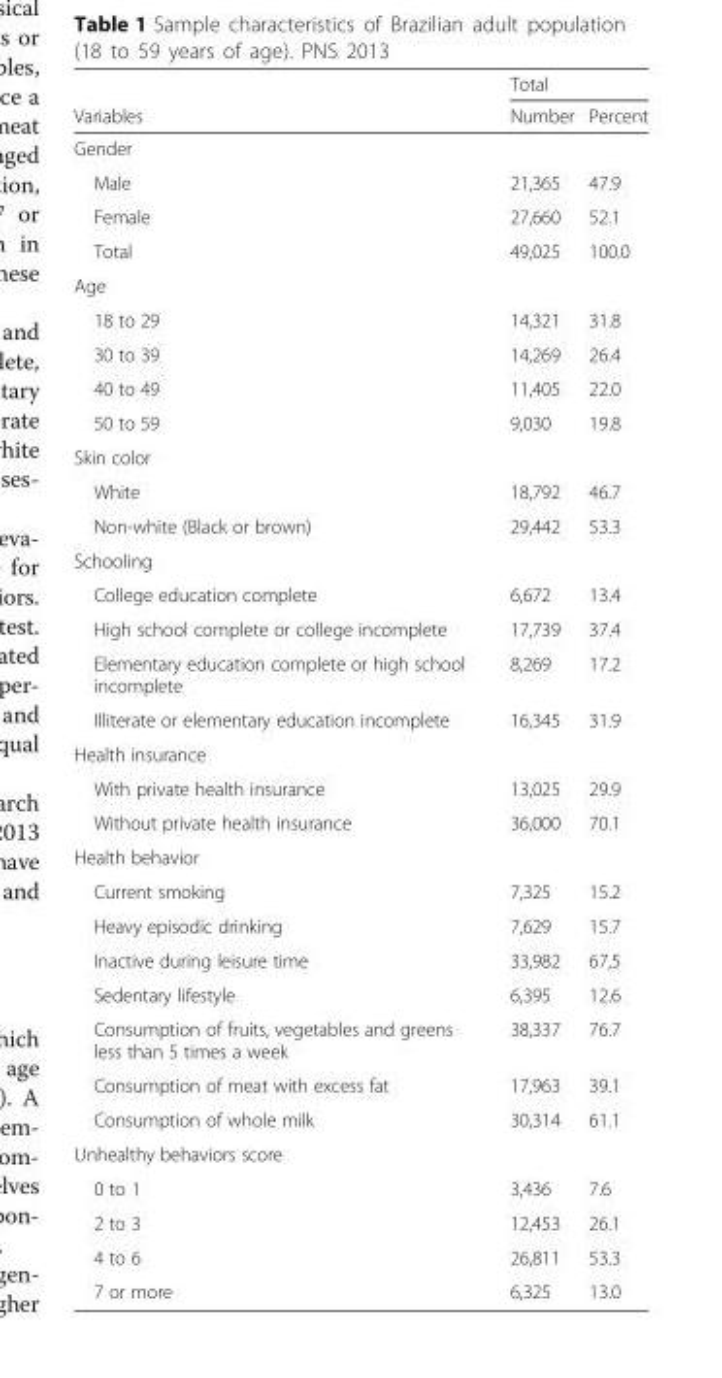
<table><thead><tr><td rowspan="2">Variables</td><td colspan="2">Total</td></tr><tr><td>Number</td><td>Percent</td></tr></thead><tbody><tr><td colspan="3">Gender</td></tr><tr><td>Male</td><td>21,365</td><td>47.9</td></tr><tr><td>Female</td><td>27,660</td><td>52.1</td></tr><tr><td>Total</td><td>49,025</td><td>100.0</td></tr><tr><td colspan="3">Age</td></tr><tr><td>18 to 29</td><td>14,321</td><td>31.8</td></tr><tr><td>30 to 39</td><td>14,269</td><td>26.4</td></tr><tr><td>40 to 49</td><td>11,405</td><td>22.0</td></tr><tr><td>50 to 59</td><td>9,030</td><td>19.8</td></tr><tr><td colspan="3">Skin color</td></tr><tr><td>White</td><td>18,792</td><td>46.7</td></tr><tr><td>Non-white (Black or brown)</td><td>29,442</td><td>53.3</td></tr><tr><td colspan="3">Schooling</td></tr><tr><td>College education complete</td><td>6,672</td><td>13.4</td></tr><tr><td>High school complete or college incomplete</td><td>17,739</td><td>37.4</td></tr><tr><td>Elementary education complete or high school incomplete</td><td>8,269</td><td>17.2</td></tr><tr><td>Illiterate or elementary education incomplete</td><td>16,345</td><td>31.9</td></tr><tr><td colspan="3">Health insurance</td></tr><tr><td>With private health insurance</td><td>13,025</td><td>29.9</td></tr><tr><td>Without private health insurance</td><td>36,000</td><td>70.1</td></tr><tr><td colspan="3">Health behavior</td></tr><tr><td>Current smoking</td><td>7,325</td><td>15.2</td></tr><tr><td>Heavy episodic drinking</td><td>7,629</td><td>15.7</td></tr><tr><td>Inactive during leisure time</td><td>33,982</td><td>67,5</td></tr><tr><td>Sedentary lifestyle</td><td>6,395</td><td>12.6</td></tr><tr><td>Consumption of fruits, vegetables and greens less than 5 times a week</td><td>38,337</td><td>76.7</td></tr><tr><td>Consumption of meat with excess fat</td><td>17,963</td><td>39.1</td></tr><tr><td>Consumption of whole milk</td><td>30,314</td><td>61.1</td></tr><tr><td colspan="3">Unhealthy behaviors score</td></tr><tr><td>0 to 1</td><td>3,436</td><td>7.6</td></tr><tr><td>2 to 3</td><td>12,453</td><td>26.1</td></tr><tr><td>4 to 6</td><td>26,811</td><td>53.3</td></tr><tr><td>7 or more</td><td>6,325</td><td>13.0</td></tr></tbody></table>